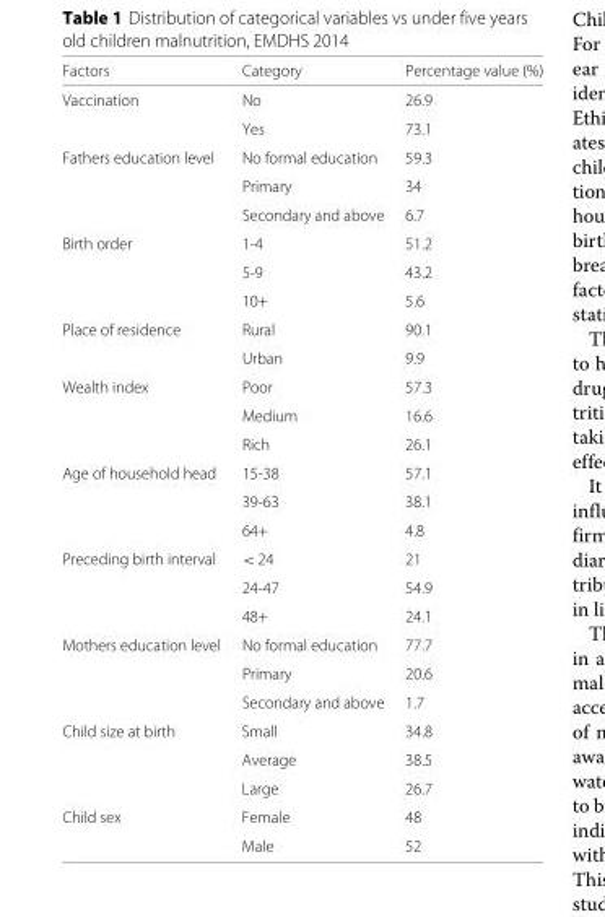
<table><thead><tr><td>Factors</td><td>Category</td><td>Percentage value (%)</td></tr></thead><tbody><tr><td rowspan="2">Vaccination</td><td>No</td><td>26.9</td></tr><tr><td>Yes</td><td>73.1</td></tr><tr><td rowspan="3">Fathers education level</td><td>No formal education</td><td>59.3</td></tr><tr><td>Primary</td><td>34</td></tr><tr><td>Secondary and above</td><td>6.7</td></tr><tr><td rowspan="3">Birth order</td><td>1-4</td><td>51.2</td></tr><tr><td>5-9</td><td>43.2</td></tr><tr><td>10+</td><td>5.6</td></tr><tr><td rowspan="2">Place of residence</td><td>Rural</td><td>90.1</td></tr><tr><td>Urban</td><td>9.9</td></tr><tr><td rowspan="3">Wealth index</td><td>Poor</td><td>57.3</td></tr><tr><td>Medium</td><td>16.6</td></tr><tr><td>Rich</td><td>26.1</td></tr><tr><td rowspan="3">Age of household head</td><td>15-38</td><td>57.1</td></tr><tr><td>39-63</td><td>38.1</td></tr><tr><td>64+</td><td>4.8</td></tr><tr><td rowspan="3">Preceding birth interval</td><td>&lt; 24</td><td>21</td></tr><tr><td>24-47</td><td>54.9</td></tr><tr><td>48+</td><td>24.1</td></tr><tr><td rowspan="3">Mothers education level</td><td>No formal education</td><td>77.7</td></tr><tr><td>Primary</td><td>20.6</td></tr><tr><td>Secondary and above</td><td>1.7</td></tr><tr><td rowspan="3">Child size at birth</td><td>Small</td><td>34.8</td></tr><tr><td>Average</td><td>38.5</td></tr><tr><td>Large</td><td>26.7</td></tr><tr><td rowspan="2">Child sex</td><td>Female</td><td>48</td></tr><tr><td>Male</td><td>52</td></tr></tbody></table>